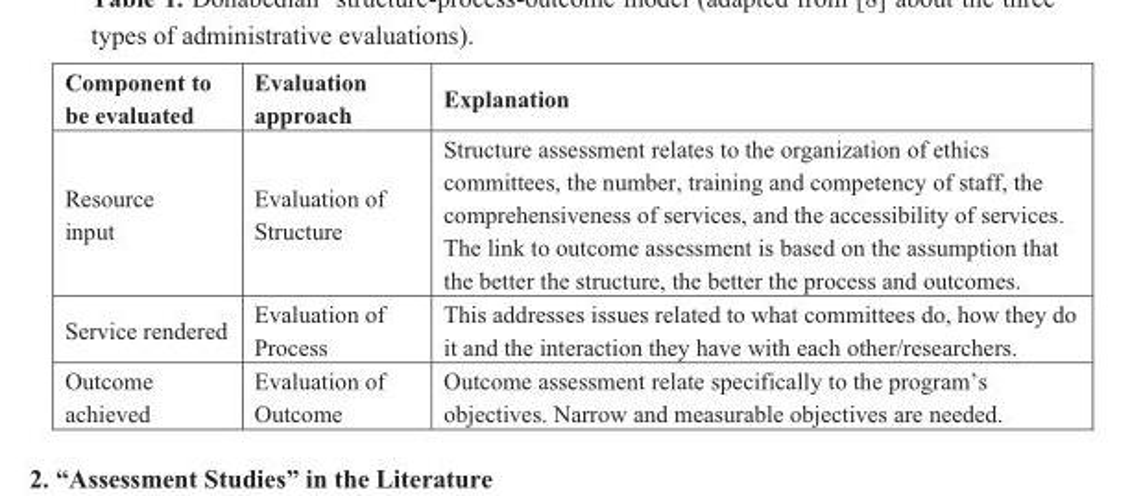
<table><thead><tr><td>Component to be evaluated</td><td>Evaluation approach</td><td>Explanation</td></tr></thead><tbody><tr><td>Resource input</td><td>Evaluation of Structure</td><td>Structure assessment relates to the organization of ethics committees, the number, training and competency of staff, the comprehensiveness of services, and the accessibility of services. The link to outcome assessment is based on the assumption that the better the structure, the better the process and outcomes.</td></tr><tr><td>Service rendered</td><td>Evaluation of Process</td><td>This addresses issues related to what committees do, how they do it and the interaction they have with each other/researchers.</td></tr><tr><td>Outcome achieved</td><td>Evaluation of Outcome</td><td>Outcome assessment relate specifically to the program’s objectives. Narrow and measurable objectives are needed.</td></tr></tbody></table>